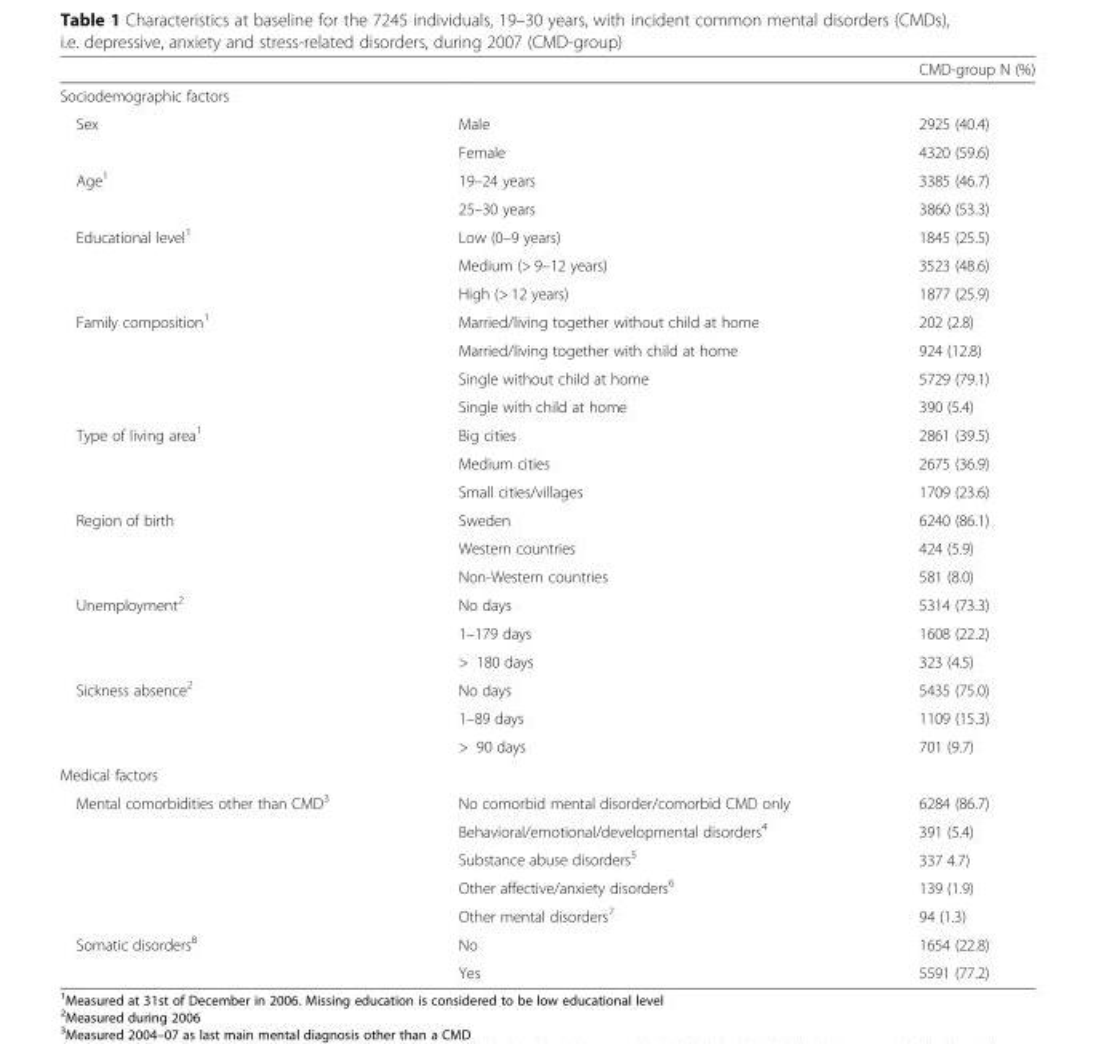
<table><thead><tr><td></td><td></td><td>CMD-group N (%)</td></tr></thead><tbody><tr><td colspan="3">Sociodemographic factors</td></tr><tr><td rowspan="2">Sex</td><td>Male</td><td>2925 (40.4)</td></tr><tr><td>Female</td><td>4320 (59.6)</td></tr><tr><td rowspan="2">Age<sup>1</sup></td><td>19–24 years</td><td>3385 (46.7)</td></tr><tr><td>25–30 years</td><td>3860 (53.3)</td></tr><tr><td rowspan="3">Educational level<sup>1</sup></td><td>Low (0–9 years)</td><td>1845 (25.5)</td></tr><tr><td>Medium (&gt; 9–12 years)</td><td>3523 (48.6)</td></tr><tr><td>High (&gt; 12 years)</td><td>1877 (25.9)</td></tr><tr><td rowspan="4">Family composition<sup>1</sup></td><td>Married/living together without child at home</td><td>202 (2.8)</td></tr><tr><td>Married/living together with child at home</td><td>924 (12.8)</td></tr><tr><td>Single without child at home</td><td>5729 (79.1)</td></tr><tr><td>Single with child at home</td><td>390 (5.4)</td></tr><tr><td rowspan="3">Type of living area<sup>1</sup></td><td>Big cities</td><td>2861 (39.5)</td></tr><tr><td>Medium cities</td><td>2675 (36.9)</td></tr><tr><td>Small cities/villages</td><td>1709 (23.6)</td></tr><tr><td rowspan="3">Region of birth</td><td>Sweden</td><td>6240 (86.1)</td></tr><tr><td>Western countries</td><td>424 (5.9)</td></tr><tr><td>Non-Western countries</td><td>581 (8.0)</td></tr><tr><td rowspan="3">Unemployment<sup>2</sup></td><td>No days</td><td>5314 (73.3)</td></tr><tr><td>1–179 days</td><td>1608 (22.2)</td></tr><tr><td>&gt; 180 days</td><td>323 (4.5)</td></tr><tr><td rowspan="3">Sickness absence<sup>2</sup></td><td>No days</td><td>5435 (75.0)</td></tr><tr><td>1–89 days</td><td>1109 (15.3)</td></tr><tr><td>&gt; 90 days</td><td>701 (9.7)</td></tr><tr><td colspan="3">Medical factors</td></tr><tr><td rowspan="5">Mental comorbidities other than CMD<sup>3</sup></td><td>No comorbid mental disorder/comorbid CMD only</td><td>6284 (86.7)</td></tr><tr><td>Behavioral/emotional/developmental disorders<sup>4</sup></td><td>391 (5.4)</td></tr><tr><td>Substance abuse disorders<sup>5</sup></td><td>337 4.7)</td></tr><tr><td>Other affective/anxiety disorders<sup>6</sup></td><td>139 (1.9)</td></tr><tr><td>Other mental disorders<sup>7</sup></td><td>94 (1.3)</td></tr><tr><td rowspan="2">Somatic disorders<sup>8</sup></td><td>No</td><td>1654 (22.8)</td></tr><tr><td>Yes</td><td>5591 (77.2)</td></tr></tbody></table>